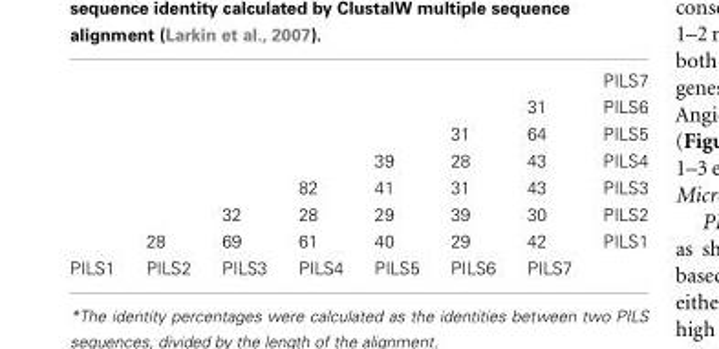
<table><thead><tr><td></td><td></td><td></td><td></td><td></td><td></td><td></td><td>PILS7</td></tr></thead><tbody><tr><td></td><td></td><td></td><td></td><td></td><td></td><td>31</td><td>PILS6</td></tr><tr><td></td><td></td><td></td><td colspan="2"></td><td>31</td><td>64</td><td>PILS5</td></tr><tr><td></td><td></td><td></td><td></td><td>39</td><td>28</td><td>43</td><td>PILS4</td></tr><tr><td></td><td></td><td></td><td>82</td><td>41</td><td>31</td><td>43</td><td>PILS3</td></tr><tr><td></td><td></td><td>32</td><td>28</td><td>29</td><td>39</td><td>30</td><td>PILS2</td></tr><tr><td></td><td>28</td><td>69</td><td>61</td><td>40</td><td>29</td><td>42</td><td>PILS1</td></tr><tr><td>PILS1</td><td>PILS2</td><td>PILS3</td><td>PILS4</td><td>PILS5</td><td>PILS6</td><td>PILS7</td><td></td></tr></tbody></table>